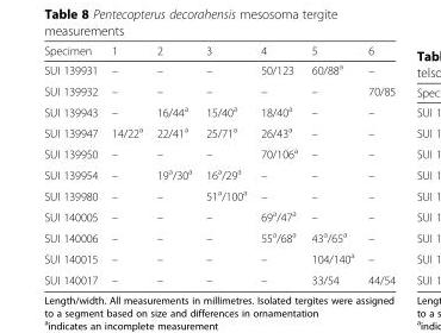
<table><thead><tr><td>Specimen</td><td>1</td><td>2</td><td>3</td><td>4</td><td>5</td><td>6</td></tr></thead><tbody><tr><td>SUI 139931</td><td>–</td><td>–</td><td>–</td><td>50/123</td><td>60/88<sup>a</sup></td><td>–</td></tr><tr><td>SUI 139932</td><td>–</td><td>–</td><td>–</td><td>–</td><td>–</td><td>70/85</td></tr><tr><td>SUI 139943</td><td>–</td><td>16/44<sup>a</sup></td><td>15/40<sup>a</sup></td><td>18/40<sup>a</sup></td><td>–</td><td>–</td></tr><tr><td>SUI 139947</td><td>14/22<sup>a</sup></td><td>22/41<sup>a</sup></td><td>25/71<sup>a</sup></td><td>26/43<sup>a</sup></td><td>–</td><td>–</td></tr><tr><td>SUI 139950</td><td>–</td><td>–</td><td>–</td><td>70/106<sup>a</sup></td><td>–</td><td>–</td></tr><tr><td>SUI 139954</td><td>–</td><td>19<sup>a</sup>/30<sup>a</sup></td><td>16<sup>a</sup>/29<sup>a</sup></td><td>–</td><td>–</td><td>–</td></tr><tr><td>SUI 139980</td><td>–</td><td>–</td><td>51<sup>a</sup>/100<sup>a</sup></td><td>–</td><td>–</td><td>–</td></tr><tr><td>SUI 140005</td><td>–</td><td>–</td><td>–</td><td>69<sup>a</sup>/47<sup>a</sup></td><td>–</td><td>–</td></tr><tr><td>SUI 140006</td><td>–</td><td>–</td><td>–</td><td>55<sup>a</sup>/68<sup>a</sup></td><td>43<sup>a</sup>/65<sup>a</sup></td><td>–</td></tr><tr><td>SUI 140015</td><td>–</td><td>–</td><td>–</td><td>–</td><td>104/140<sup>a</sup></td><td>–</td></tr><tr><td>SUI 140017</td><td>–</td><td>–</td><td>–</td><td>–</td><td>33/54</td><td>44/54</td></tr></tbody></table>